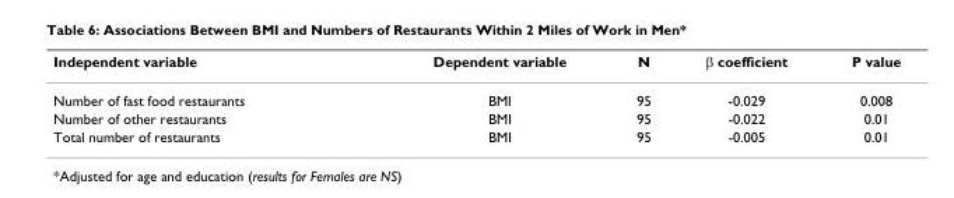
<table><thead><tr><td>Independent variable</td><td>Dependent variable</td><td>N</td><td>β coefficient</td><td>P value</td></tr></thead><tbody><tr><td>Number of fast food restaurants</td><td>BMI</td><td>95</td><td>-0.029</td><td>0.008</td></tr><tr><td>Number of other restaurants</td><td>BMI</td><td>95</td><td>-0.022</td><td>0.01</td></tr><tr><td>Total number of restaurants</td><td>BMI</td><td>95</td><td>-0.005</td><td>0.01</td></tr></tbody></table>